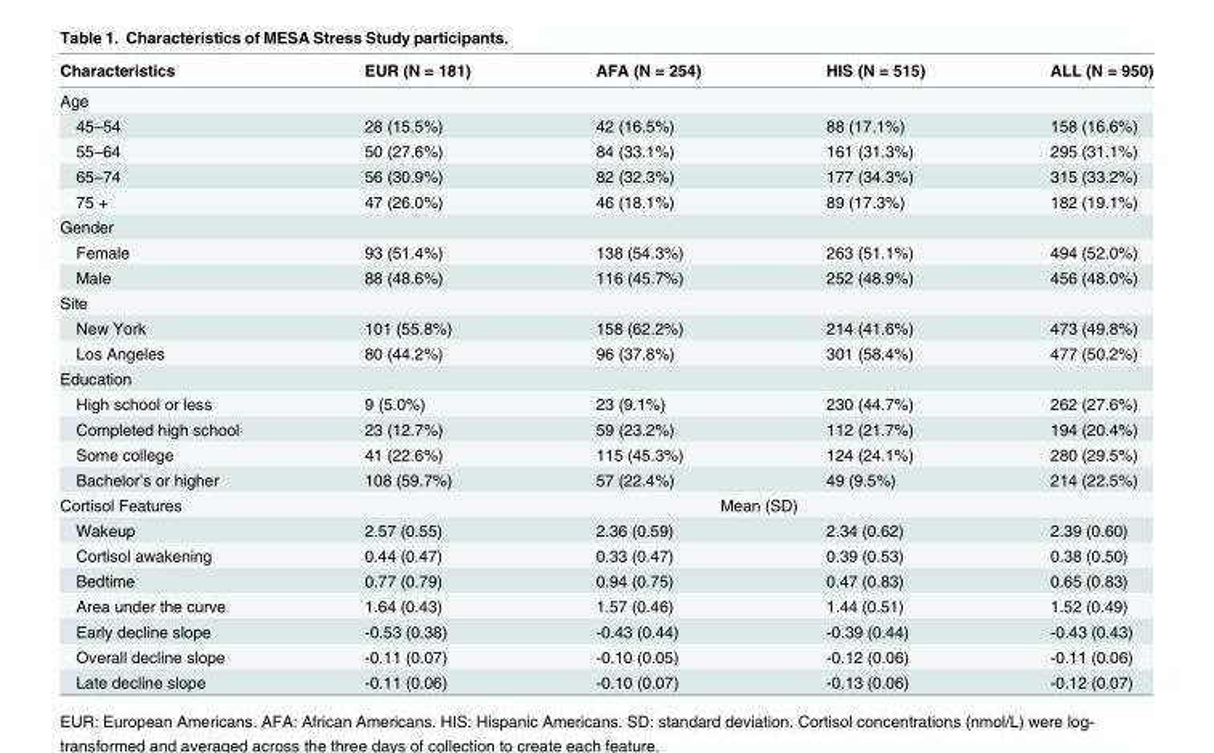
<table><thead><tr><td>Characteristics</td><td>EUR (N = 181)</td><td>AFA (N = 254)</td><td>HIS (N = 515)</td><td>ALL (N = 950)</td></tr></thead><tbody><tr><td colspan="5">Age</td></tr><tr><td>45–54</td><td>28 (15.5%)</td><td>42 (16.5%)</td><td>88 (17.1%)</td><td>158 (16.6%)</td></tr><tr><td>55–64</td><td>50 (27.6%)</td><td>84 (33.1%)</td><td>161 (31.3%)</td><td>295 (31.1%)</td></tr><tr><td>65–74</td><td>56 (30.9%)</td><td>82 (32.3%)</td><td>177 (34.3%)</td><td>315 (33.2%)</td></tr><tr><td>75 +</td><td>47 (26.0%)</td><td>46 (18.1%)</td><td>89 (17.3%)</td><td>182 (19.1%)</td></tr><tr><td colspan="5">Gender</td></tr><tr><td>Female</td><td>93 (51.4%)</td><td>138 (54.3%)</td><td>263 (51.1%)</td><td>494 (52.0%)</td></tr><tr><td>Male</td><td>88 (48.6%)</td><td>116 (45.7%)</td><td>252 (48.9%)</td><td>456 (48.0%)</td></tr><tr><td colspan="5">Site</td></tr><tr><td>New York</td><td>101 (55.8%)</td><td>158 (62.2%)</td><td>214 (41.6%)</td><td>473 (49.8%)</td></tr><tr><td>Los Angeles</td><td>80 (44.2%)</td><td>96 (37.8%)</td><td>301 (58.4%)</td><td>477 (50.2%)</td></tr><tr><td colspan="5">Education</td></tr><tr><td>High school or less</td><td>9 (5.0%)</td><td>23 (9.1%)</td><td>230 (44.7%)</td><td>262 (27.6%)</td></tr><tr><td>Completed high school</td><td>23 (12.7%)</td><td>59 (23.2%)</td><td>112 (21.7%)</td><td>194 (20.4%)</td></tr><tr><td>Some college</td><td>41 (22.6%)</td><td>115 (45.3%)</td><td>124 (24.1%)</td><td>280 (29.5%)</td></tr><tr><td>Bachelor’s or higher</td><td>108 (59.7%)</td><td>57 (22.4%)</td><td>49 (9.5%)</td><td>214 (22.5%)</td></tr><tr><td>Cortisol Features</td><td colspan="4">Mean (SD)</td></tr><tr><td>Wakeup</td><td>2.57 (0.55)</td><td>2.36 (0.59)</td><td>2.34 (0.62)</td><td>2.39 (0.60)</td></tr><tr><td>Cortisol awakening</td><td>0.44 (0.47)</td><td>0.33 (0.47)</td><td>0.39 (0.53)</td><td>0.38 (0.50)</td></tr><tr><td>Bedtime</td><td>0.77 (0.79)</td><td>0.94 (0.75)</td><td>0.47 (0.83)</td><td>0.65 (0.83)</td></tr><tr><td>Area under the curve</td><td>1.64 (0.43)</td><td>1.57 (0.46)</td><td>1.44 (0.51)</td><td>1.52 (0.49)</td></tr><tr><td>Early decline slope</td><td>-0.53 (0.38)</td><td>-0.43 (0.44)</td><td>-0.39 (0.44)</td><td>-0.43 (0.43)</td></tr><tr><td>Overall decline slope</td><td>-0.11 (0.07)</td><td>-0.10 (0.05)</td><td>-0.12 (0.06)</td><td>-0.11 (0.06)</td></tr><tr><td>Late decline slope</td><td>-0.11 (0.06)</td><td>-0.10 (0.07)</td><td>-0.13 (0.06)</td><td>-0.12 (0.07)</td></tr></tbody></table>